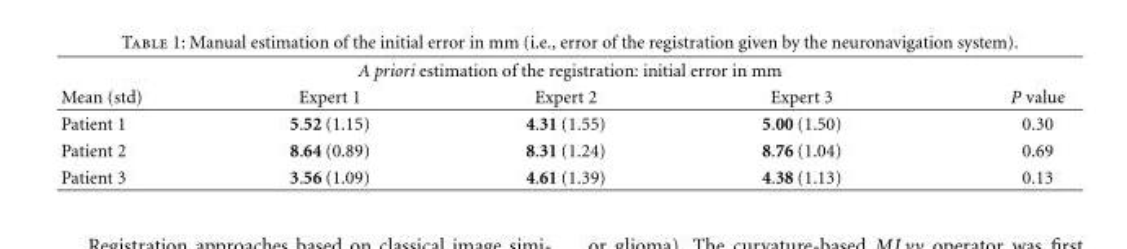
<table><thead><tr><td colspan="5">A priori estimation of the registration: initial error in mm</td></tr><tr><td>Mean (std)</td><td>Expert 1</td><td>Expert 2</td><td>Expert 3</td><td>P value</td></tr></thead><tbody><tr><td>Patient 1</td><td>5.52 (1.15)</td><td>4.31 (1.55)</td><td>5.00 (1.50)</td><td>0.30</td></tr><tr><td>Patient 2</td><td>8.64 (0.89)</td><td>8.31 (1.24)</td><td>8.76 (1.04)</td><td>0.69</td></tr><tr><td>Patient 3</td><td>3.56 (1.09)</td><td>4.61 (1.39)</td><td>4.38 (1.13)</td><td>0.13</td></tr></tbody></table>